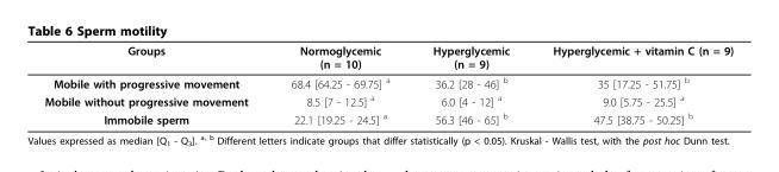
<table><thead><tr><td>Groups</td><td>Normoglycemic (n = 10)</td><td>Hyperglycemic (n = 9)</td><td>Hyperglycemic + vitamin C (n = 9)</td></tr></thead><tbody><tr><td>Mobile with progressive movement</td><td>68.4 [64.25 - 69.75] <sup>a</sup></td><td>36.2 [28 - 46] <sup>b</sup></td><td>35 [17.25 - 51.75] <sup>b</sup></td></tr><tr><td>Mobile without progressive movement</td><td>8.5 [7 - 12.5] <sup>a</sup></td><td>6.0 [4 - 12] <sup>a</sup></td><td>9.0 [5.75 - 25.5] <sup>a</sup></td></tr><tr><td>Immobile sperm</td><td>22.1 [19.25 - 24.5] <sup>a</sup></td><td>56.3 [46 - 65] <sup>b</sup></td><td>47.5 [38.75 - 50.25] <sup>b</sup></td></tr></tbody></table>